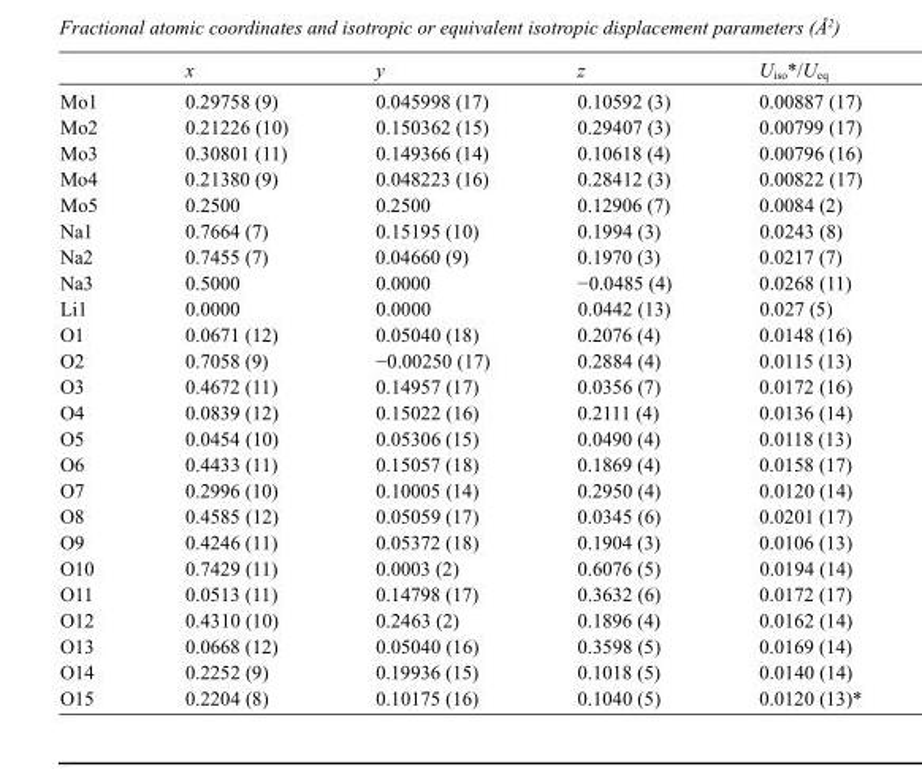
<table><thead><tr><td></td><td>x</td><td>y</td><td>z</td><td>U<sub>iso</sub>*/U<sub>eq</sub></td></tr></thead><tbody><tr><td>Mo1</td><td>0.29758 (9)</td><td>0.045998 (17)</td><td>0.10592 (3)</td><td>0.00887 (17)</td></tr><tr><td>Mo2</td><td>0.21226 (10)</td><td>0.150362 (15)</td><td>0.29407 (3)</td><td>0.00799 (17)</td></tr><tr><td>Mo3</td><td>0.30801 (11)</td><td>0.149366 (14)</td><td>0.10618 (4)</td><td>0.00796 (16)</td></tr><tr><td>Mo4</td><td>0.21380 (9)</td><td>0.048223 (16)</td><td>0.28412 (3)</td><td>0.00822 (17)</td></tr><tr><td>Mo5</td><td>0.2500</td><td>0.2500</td><td>0.12906 (7)</td><td>0.0084 (2)</td></tr><tr><td>Na1</td><td>0.7664 (7)</td><td>0.15195 (10)</td><td>0.1994 (3)</td><td>0.0243 (8)</td></tr><tr><td>Na2</td><td>0.7455 (7)</td><td>0.04660 (9)</td><td>0.1970 (3)</td><td>0.0217 (7)</td></tr><tr><td>Na3</td><td>0.5000</td><td>0.0000</td><td>−0.0485 (4)</td><td>0.0268 (11)</td></tr><tr><td>Li1</td><td>0.0000</td><td>0.0000</td><td>0.0442 (13)</td><td>0.027 (5)</td></tr><tr><td>O1</td><td>0.0671 (12)</td><td>0.05040 (18)</td><td>0.2076 (4)</td><td>0.0148 (16)</td></tr><tr><td>O2</td><td>0.7058 (9)</td><td>−0.00250 (17)</td><td>0.2884 (4)</td><td>0.0115 (13)</td></tr><tr><td>O3</td><td>0.4672 (11)</td><td>0.14957 (17)</td><td>0.0356 (7)</td><td>0.0172 (16)</td></tr><tr><td>O4</td><td>0.0839 (12)</td><td>0.15022 (16)</td><td>0.2111 (4)</td><td>0.0136 (14)</td></tr><tr><td>O5</td><td>0.0454 (10)</td><td>0.05306 (15)</td><td>0.0490 (4)</td><td>0.0118 (13)</td></tr><tr><td>O6</td><td>0.4433 (11)</td><td>0.15057 (18)</td><td>0.1869 (4)</td><td>0.0158 (17)</td></tr><tr><td>O7</td><td>0.2996 (10)</td><td>0.10005 (14)</td><td>0.2950 (4)</td><td>0.0120 (14)</td></tr><tr><td>O8</td><td>0.4585 (12)</td><td>0.05059 (17)</td><td>0.0345 (6)</td><td>0.0201 (17)</td></tr><tr><td>O9</td><td>0.4246 (11)</td><td>0.05372 (18)</td><td>0.1904 (3)</td><td>0.0106 (13)</td></tr><tr><td>O10</td><td>0.7429 (11)</td><td>0.0003 (2)</td><td>0.6076 (5)</td><td>0.0194 (14)</td></tr><tr><td>O11</td><td>0.0513 (11)</td><td>0.14798 (17)</td><td>0.3632 (6)</td><td>0.0172 (17)</td></tr><tr><td>O12</td><td>0.4310 (10)</td><td>0.2463 (2)</td><td>0.1896 (4)</td><td>0.0162 (14)</td></tr><tr><td>O13</td><td>0.0668 (12)</td><td>0.05040 (16)</td><td>0.3598 (5)</td><td>0.0169 (14)</td></tr><tr><td>O14</td><td>0.2252 (9)</td><td>0.19936 (15)</td><td>0.1018 (5)</td><td>0.0140 (14)</td></tr><tr><td>O15</td><td>0.2204 (8)</td><td>0.10175 (16)</td><td>0.1040 (5)</td><td>0.0120 (13)*</td></tr></tbody></table>